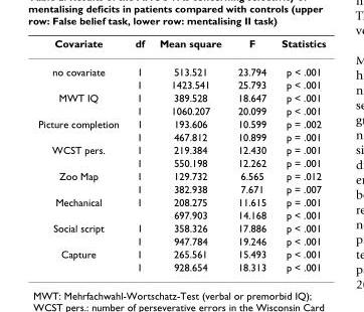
<table><thead><tr><td>Covariate</td><td>df</td><td>Mean square</td><td>F</td><td>Statistics</td></tr></thead><tbody><tr><td rowspan="2">no covariate</td><td>1</td><td>513.521</td><td>23.794</td><td>p &lt; .001</td></tr><tr><td>1</td><td>1423.541</td><td>25.793</td><td>p &lt; .001</td></tr><tr><td rowspan="2">MWT IQ</td><td>1</td><td>389.528</td><td>18.647</td><td>p &lt; .001</td></tr><tr><td>1</td><td>1060.207</td><td>20.099</td><td>p &lt; .001</td></tr><tr><td rowspan="2">Picture completion</td><td>1</td><td>193.606</td><td>10.599</td><td>p = .002</td></tr><tr><td>1</td><td>467.812</td><td>10.899</td><td>p = .001</td></tr><tr><td rowspan="2">WCST pers.</td><td>1</td><td>219.384</td><td>12.430</td><td>p = .001</td></tr><tr><td>1</td><td>550.198</td><td>12.262</td><td>p = .001</td></tr><tr><td rowspan="2">Zoo Map</td><td>1</td><td>129.732</td><td>6.565</td><td>p = .012</td></tr><tr><td>1</td><td>382.938</td><td>7.671</td><td>p = .007</td></tr><tr><td rowspan="2">Mechanical</td><td>1</td><td>208.275</td><td>11.615</td><td>p = .001</td></tr><tr><td></td><td>697.903</td><td>14.168</td><td>p &lt; .001</td></tr><tr><td rowspan="2">Social script</td><td>1</td><td>358.326</td><td>17.886</td><td>p &lt; .001</td></tr><tr><td>1</td><td>947.784</td><td>19.246</td><td>p &lt; .001</td></tr><tr><td rowspan="2">Capture</td><td>1</td><td>265.561</td><td>15.493</td><td>p &lt; .001</td></tr><tr><td>1</td><td>928.654</td><td>18.313</td><td>p &lt; .001</td></tr></tbody></table>